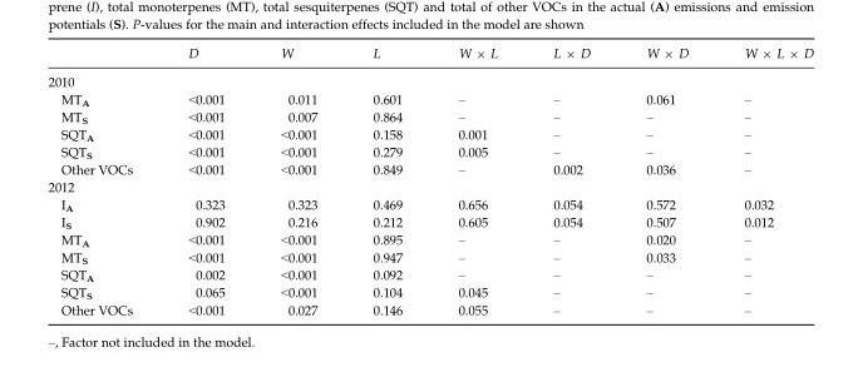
<table><thead><tr><td></td><td>D</td><td>W</td><td>L</td><td>W × L</td><td>L × D</td><td>W × D</td><td>W × L × D</td></tr></thead><tbody><tr><td colspan="8">2010</td></tr><tr><td>MT<sub>A</sub></td><td>&lt;0.001</td><td>0.011</td><td>0.601</td><td>–</td><td>–</td><td>0.061</td><td>–</td></tr><tr><td>MT<sub>S</sub></td><td>&lt;0.001</td><td>0.007</td><td>0.864</td><td>–</td><td>–</td><td>–</td><td>–</td></tr><tr><td>SQT<sub>A</sub></td><td>&lt;0.001</td><td>&lt;0.001</td><td>0.158</td><td>0.001</td><td>–</td><td>–</td><td>–</td></tr><tr><td>SQT<sub>S</sub></td><td>&lt;0.001</td><td>&lt;0.001</td><td>0.279</td><td>0.005</td><td>–</td><td>–</td><td>–</td></tr><tr><td>Other VOCs</td><td>&lt;0.001</td><td>&lt;0.001</td><td>0.849</td><td>–</td><td>0.002</td><td>0.036</td><td>–</td></tr><tr><td colspan="8">2012</td></tr><tr><td>I<sub>A</sub></td><td>0.323</td><td>0.323</td><td>0.469</td><td>0.656</td><td>0.054</td><td>0.572</td><td>0.032</td></tr><tr><td>I<sub>S</sub></td><td>0.902</td><td>0.216</td><td>0.212</td><td>0.605</td><td>0.054</td><td>0.507</td><td>0.012</td></tr><tr><td>MT<sub>A</sub></td><td>&lt;0.001</td><td>&lt;0.001</td><td>0.895</td><td>–</td><td>–</td><td>0.020</td><td>–</td></tr><tr><td>MT<sub>S</sub></td><td>&lt;0.001</td><td>&lt;0.001</td><td>0.947</td><td>–</td><td>–</td><td>0.033</td><td>–</td></tr><tr><td>SQT<sub>A</sub></td><td>0.002</td><td>&lt;0.001</td><td>0.092</td><td>–</td><td>–</td><td>–</td><td>–</td></tr><tr><td>SQT<sub>S</sub></td><td>0.065</td><td>&lt;0.001</td><td>0.104</td><td>0.045</td><td>–</td><td>–</td><td>–</td></tr><tr><td>Other VOCs</td><td>&lt;0.001</td><td>0.027</td><td>0.146</td><td>0.055</td><td>–</td><td>–</td><td>–</td></tr></tbody></table>